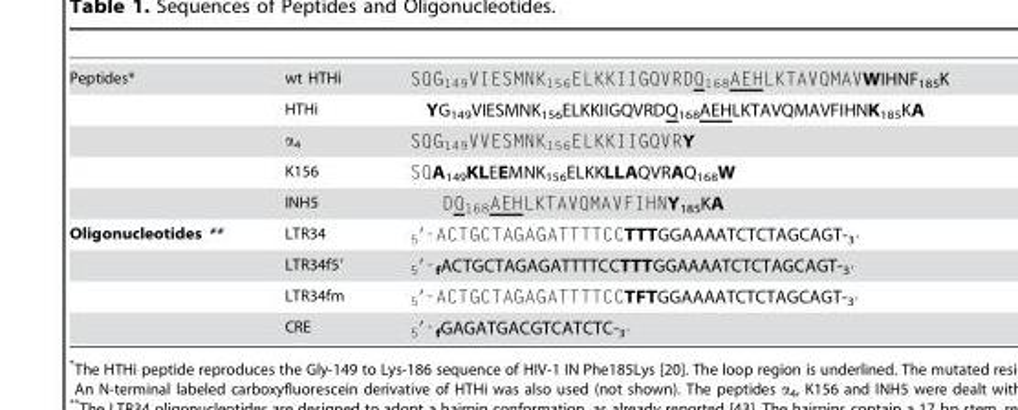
<table><tbody><tr><td rowspan="5">Peptides*</td><td>wt HTHi</td><td>SQG<sub>149</sub>VIESMNK<sub>156</sub>ELKKIIGQVRDQ<sub>168</sub>AEHLKTAVQMAVWIHNF<sub>185</sub>K</td></tr><tr><td>HTHi</td><td>YG<sub>149</sub>VIESMNK<sub>156</sub>ELKKIIGQVRDQ<sub>168</sub>AEHLKTAVQMAVFIHNK<sub>185</sub>KA</td></tr><tr><td>α<sub>4</sub></td><td>SQG<sub>149</sub>VVESMNK<sub>156</sub>ELKKIIGQVRY</td></tr><tr><td>K156</td><td>SQA<sub>149</sub>KLEEMNK<sub>156</sub>ELKKLLAQVRAQ<sub>168</sub>W</td></tr><tr><td>INH5</td><td>DQ<sub>168</sub>AEHLKTAVQMAVFIHNY<sub>185</sub>KA</td></tr><tr><td rowspan="4">Oligonucleotides **</td><td>LTR34</td><td><sub>5</sub>′-ACTGCTAGAGATTTTCCTTTGGAAAATCTCTAGCAGT-<sub>3′</sub></td></tr><tr><td>LTR34f5′</td><td><sub>5</sub>′-<sub>f</sub>ACTGCTAGAGATTTTCCTTTGGAAAATCTCTAGCAGT-<sub>3′</sub></td></tr><tr><td>LTR34fm</td><td><sub>5</sub>′-ACTGCTAGAGATTTTCCTFTGGAAAATCTCTAGCAGT-<sub>3′</sub></td></tr><tr><td>CRE</td><td><sub>5</sub>′-<sub>f</sub>GAGATGACGTCATCTC-<sub>3′</sub></td></tr></tbody></table>